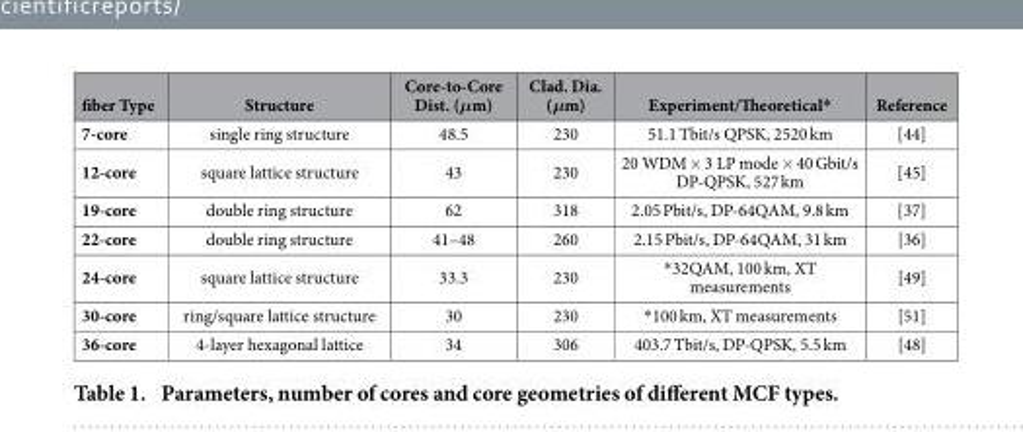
<table><thead><tr><td>fiber Type</td><td>Structure</td><td>Core-to-Core Dist. (μm)</td><td>Clad. Dia. (μm)</td><td>Experiment/Theoretical*</td><td>Reference</td></tr></thead><tbody><tr><td>7-core</td><td>single ring structure</td><td>48.5</td><td>230</td><td>51.1 Tbit/s QPSK, 2520 km</td><td>[44]</td></tr><tr><td>12-core</td><td>square lattice structure</td><td>43</td><td>230</td><td>20 WDM × 3 LP mode × 40 Gbit/s DP-QPSK, 527 km</td><td>[45]</td></tr><tr><td>19-core</td><td>double ring structure</td><td>62</td><td>318</td><td>2.05 Pbit/s, DP-64QAM, 9.8 km</td><td>[37]</td></tr><tr><td>22-core</td><td>double ring structure</td><td>41–48</td><td>260</td><td>2.15 Pbit/s, DP-64QAM, 31 km</td><td>[36]</td></tr><tr><td>24-core</td><td>square lattice structure</td><td>33.3</td><td>230</td><td>* 32QAM, 100 km, XT measurements</td><td>[49]</td></tr><tr><td>30-core</td><td>ring/square lattice structure</td><td>30</td><td>230</td><td>* 100 km, XT measurements</td><td>[51]</td></tr><tr><td>36-core</td><td>4-layer hexagonal lattice</td><td>34</td><td>306</td><td>403.7 Tbit/s, DP-QPSK, 5.5 km</td><td>[48]</td></tr></tbody></table>